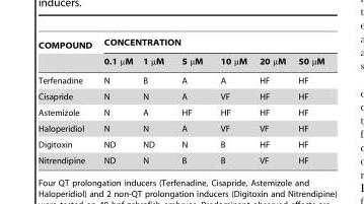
<table><thead><tr><td rowspan="2">COMPOUND</td><td colspan="6">CONCENTRATION</td></tr><tr><td>0.1 µM</td><td>1 µM</td><td>5 µM</td><td>10 µM</td><td>20 µM</td><td>50 µM</td></tr></thead><tbody><tr><td>Terfenadine</td><td>N</td><td>B</td><td>A</td><td>A</td><td>HF</td><td>HF</td></tr><tr><td>Cisapride</td><td>N</td><td>N</td><td>A</td><td>VF</td><td>HF</td><td>HF</td></tr><tr><td>Astemizole</td><td>N</td><td>A</td><td>HF</td><td>HF</td><td>HF</td><td>HF</td></tr><tr><td>Haloperidiol</td><td>N</td><td>N</td><td>A</td><td>VF</td><td>VF</td><td>HF</td></tr><tr><td>Digitoxin</td><td>ND</td><td>ND</td><td>N</td><td>B</td><td>HF</td><td>HF</td></tr><tr><td>Nitrendipine</td><td>ND</td><td>N</td><td>B</td><td>B</td><td>VF</td><td>HF</td></tr></tbody></table>